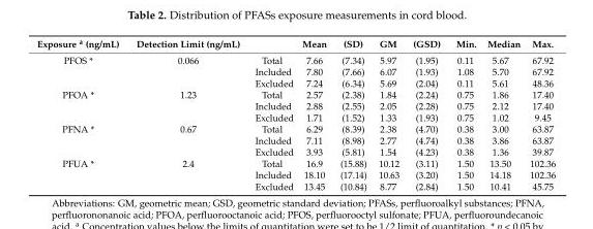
<table><thead><tr><td>Exposure <sup>a</sup> (ng/mL)</td><td>Detection Limit (ng/mL)</td><td></td><td>Mean</td><td>(SD)</td><td>GM</td><td>(GSD)</td><td>Min.</td><td>Median</td><td>Max.</td></tr></thead><tbody><tr><td rowspan="3">PFOS *</td><td>0.066</td><td>Total</td><td>7.66</td><td>(7.34)</td><td>5.97</td><td>(1.95)</td><td>0.11</td><td>5.67</td><td>67.92</td></tr><tr><td></td><td>Included</td><td>7.80</td><td>(7.66)</td><td>6.07</td><td>(1.93)</td><td>1.08</td><td>5.70</td><td>67.92</td></tr><tr><td></td><td>Excluded</td><td>7.24</td><td>(6.34)</td><td>5.69</td><td>(2.04)</td><td>0.11</td><td>5.61</td><td>48.36</td></tr><tr><td rowspan="3">PFOA *</td><td>1.23</td><td>Total</td><td>2.57</td><td>(2.38)</td><td>1.84</td><td>(2.24)</td><td>0.75</td><td>1.86</td><td>17.40</td></tr><tr><td></td><td>Included</td><td>2.88</td><td>(2.55)</td><td>2.05</td><td>(2.28)</td><td>0.75</td><td>2.12</td><td>17.40</td></tr><tr><td></td><td>Excluded</td><td>1.71</td><td>(1.52)</td><td>1.33</td><td>(1.93)</td><td>0.75</td><td>1.02</td><td>9.45</td></tr><tr><td rowspan="3">PFNA *</td><td>0.67</td><td>Total</td><td>6.29</td><td>(8.39)</td><td>2.38</td><td>(4.70)</td><td>0.38</td><td>3.00</td><td>63.87</td></tr><tr><td></td><td>Included</td><td>7.11</td><td>(8.98)</td><td>2.77</td><td>(4.74)</td><td>0.38</td><td>3.86</td><td>63.87</td></tr><tr><td></td><td>Excluded</td><td>3.93</td><td>(5.81)</td><td>1.54</td><td>(4.23)</td><td>0.38</td><td>1.36</td><td>39.87</td></tr><tr><td rowspan="3">PFUA *</td><td>2.4</td><td>Total</td><td>16.9</td><td>(15.88)</td><td>10.12</td><td>(3.11)</td><td>1.50</td><td>13.50</td><td>102.36</td></tr><tr><td></td><td>Included</td><td>18.10</td><td>(17.14)</td><td>10.63</td><td>(3.20)</td><td>1.50</td><td>14.18</td><td>102.36</td></tr><tr><td></td><td>Excluded</td><td>13.45</td><td>(10.84)</td><td>8.77</td><td>(2.84)</td><td>1.50</td><td>10.41</td><td>45.75</td></tr></tbody></table>